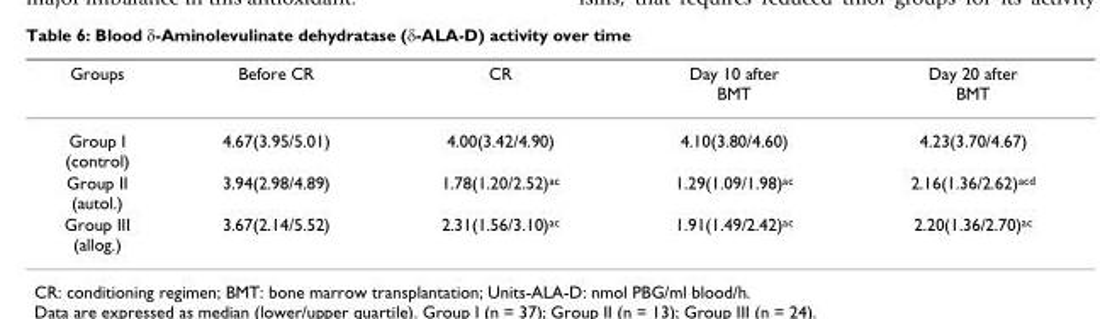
<table><thead><tr><td>Groups</td><td>Before CR</td><td>CR</td><td>Day 10 after BMT</td><td>Day 20 after BMT</td></tr></thead><tbody><tr><td>Group I (control)</td><td>4.67(3.95/5.01)</td><td>4.00(3.42/4.90)</td><td>4.10(3.80/4.60)</td><td>4.23(3.70/4.67)</td></tr><tr><td>Group II (autol.)</td><td>3.94(2.98/4.89)</td><td>1.78(1.20/2.52)<sup>ac</sup></td><td>1.29(1.09/1.98)<sup>ac</sup></td><td>2.16(1.36/2.62)<sup>acd</sup></td></tr><tr><td>Group III (allog.)</td><td>3.67(2.14/5.52)</td><td>2.31(1.56/3.10)<sup>ac</sup></td><td>1.91(1.49/2.42)<sup>ac</sup></td><td>2.20(1.36/2.70)<sup>ac</sup></td></tr></tbody></table>